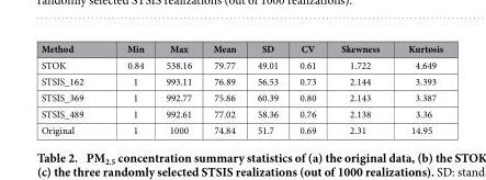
<table><thead><tr><td>Method</td><td>Min</td><td>Max</td><td>Mean</td><td>SD</td><td>CV</td><td>Skewness</td><td>Kurtosis</td></tr></thead><tbody><tr><td>STOK</td><td>0.84</td><td>538.16</td><td>79.77</td><td>49.01</td><td>0.61</td><td>1.722</td><td>4.649</td></tr><tr><td>STSIS_162</td><td>1</td><td>993.11</td><td>76.89</td><td>56.53</td><td>0.73</td><td>2.144</td><td>3.393</td></tr><tr><td>STSIS_369</td><td>1</td><td>992.77</td><td>75.86</td><td>60.39</td><td>0.80</td><td>2.143</td><td>3.387</td></tr><tr><td>STSIS_489</td><td>1</td><td>992.61</td><td>77.02</td><td>58.36</td><td>0.76</td><td>2.138</td><td>3.36</td></tr><tr><td>Original</td><td>1</td><td>1000</td><td>74.84</td><td>51.7</td><td>0.69</td><td>2.31</td><td>14.95</td></tr></tbody></table>